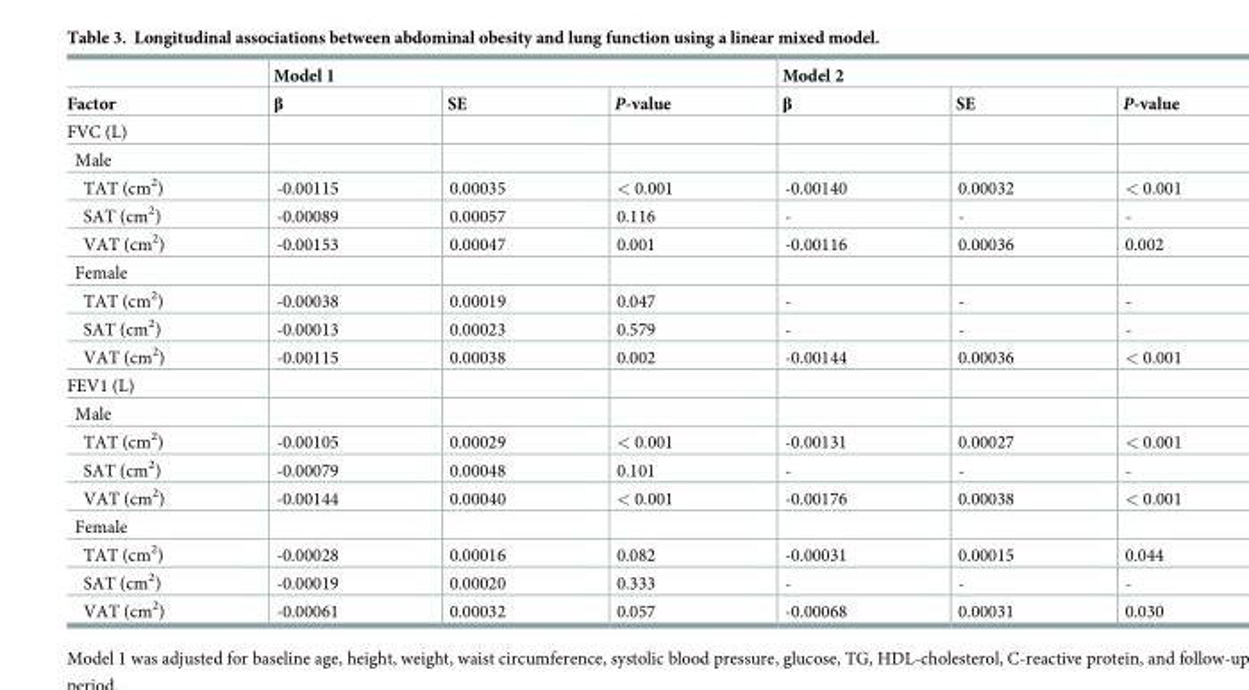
<table><thead><tr><td rowspan="2">Factor</td><td colspan="3">Model 1</td><td colspan="3">Model 2</td></tr><tr><td>β</td><td>SE</td><td>P-value</td><td>β</td><td>SE</td><td>P-value</td></tr></thead><tbody><tr><td colspan="7">FVC (L)</td></tr><tr><td colspan="7">Male</td></tr><tr><td>TAT (cm<sup>2</sup>)</td><td>-0.00115</td><td>0.00035</td><td>&lt; 0.001</td><td>-0.00140</td><td>0.00032</td><td>&lt; 0.001</td></tr><tr><td>SAT (cm<sup>2</sup>)</td><td>-0.00089</td><td>0.00057</td><td>0.116</td><td>-</td><td>-</td><td>-</td></tr><tr><td>VAT (cm<sup>2</sup>)</td><td>-0.00153</td><td>0.00047</td><td>0.001</td><td>-0.00116</td><td>0.00036</td><td>0.002</td></tr><tr><td colspan="7">Female</td></tr><tr><td>TAT (cm<sup>2</sup>)</td><td>-0.00038</td><td>0.00019</td><td>0.047</td><td>-</td><td>-</td><td>-</td></tr><tr><td>SAT (cm<sup>2</sup>)</td><td>-0.00013</td><td>0.00023</td><td>0.579</td><td>-</td><td>-</td><td>-</td></tr><tr><td>VAT (cm<sup>2</sup>)</td><td>-0.00115</td><td>0.00038</td><td>0.002</td><td>-0.00144</td><td>0.00036</td><td>&lt; 0.001</td></tr><tr><td colspan="7">FEV1 (L)</td></tr><tr><td colspan="7">Male</td></tr><tr><td>TAT (cm<sup>2</sup>)</td><td>-0.00105</td><td>0.00029</td><td>&lt; 0.001</td><td>-0.00131</td><td>0.00027</td><td>&lt; 0.001</td></tr><tr><td>SAT (cm<sup>2</sup>)</td><td>-0.00079</td><td>0.00048</td><td>0.101</td><td>-</td><td>-</td><td>-</td></tr><tr><td>VAT (cm<sup>2</sup>)</td><td>-0.00144</td><td>0.00040</td><td>&lt; 0.001</td><td>-0.00176</td><td>0.00038</td><td>&lt; 0.001</td></tr><tr><td colspan="7">Female</td></tr><tr><td>TAT (cm<sup>2</sup>)</td><td>-0.00028</td><td>0.00016</td><td>0.082</td><td>-0.00031</td><td>0.00015</td><td>0.044</td></tr><tr><td>SAT (cm<sup>2</sup>)</td><td>-0.00019</td><td>0.00020</td><td>0.333</td><td>-</td><td>-</td><td>-</td></tr><tr><td>VAT (cm<sup>2</sup>)</td><td>-0.00061</td><td>0.00032</td><td>0.057</td><td>-0.00068</td><td>0.00031</td><td>0.030</td></tr></tbody></table>